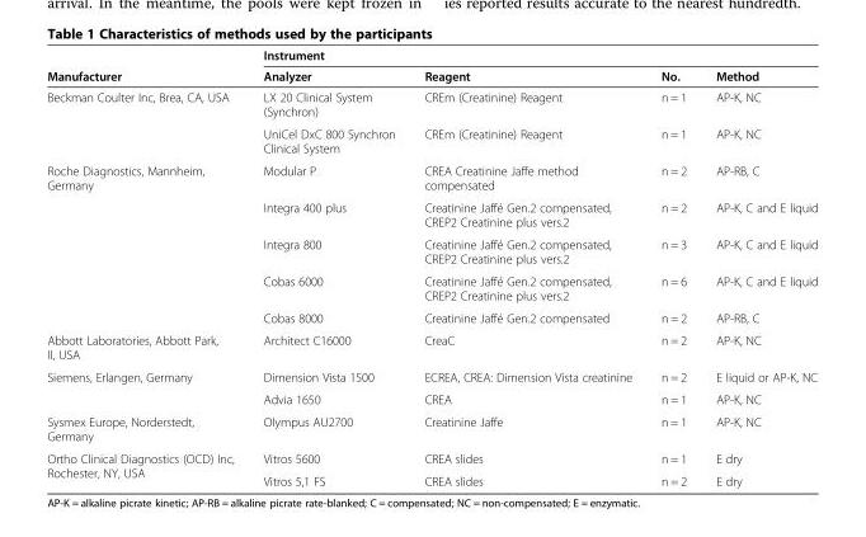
<table><thead><tr><td rowspan="2">Manufacturer</td><td colspan="4">Instrument</td></tr><tr><td>Analyzer</td><td>Reagent</td><td>No.</td><td>Method</td></tr></thead><tbody><tr><td rowspan="2">Beckman Coulter Inc, Brea, CA, USA</td><td>LX 20 Clinical System (Synchron)</td><td>CREm (Creatinine) Reagent</td><td>n = 1</td><td>AP-K, NC</td></tr><tr><td>UniCel DxC 800 Synchron Clinical System</td><td>CREm (Creatinine) Reagent</td><td>n = 1</td><td>AP-K, NC</td></tr><tr><td rowspan="5">Roche Diagnostics, Mannheim, Germany</td><td>Modular P</td><td>CREA Creatinine Jaffe method compensated</td><td>n = 2</td><td>AP-RB, C</td></tr><tr><td>Integra 400 plus</td><td>Creatinine Jaffé Gen.2 compensated, CREP2 Creatinine plus vers.2</td><td>n = 2</td><td>AP-K, C and E liquid</td></tr><tr><td>Integra 800</td><td>Creatinine Jaffé Gen.2 compensated, CREP2 Creatinine plus vers.2</td><td>n = 3</td><td>AP-K, C and E liquid</td></tr><tr><td>Cobas 6000</td><td>Creatinine Jaffé Gen.2 compensated, CREP2 Creatinine plus vers.2</td><td>n = 6</td><td>AP-K, C and E liquid</td></tr><tr><td>Cobas 8000</td><td>Creatinine Jaffé Gen.2 compensated</td><td>n = 2</td><td>AP-RB, C</td></tr><tr><td>Abbott Laboratories, Abbott Park, Il, USA</td><td>Architect C16000</td><td>CreaC</td><td>n = 2</td><td>AP-K, NC</td></tr><tr><td rowspan="2">Siemens, Erlangen, Germany</td><td>Dimension Vista 1500</td><td>ECREA, CREA: Dimension Vista creatinine</td><td>n = 2</td><td>E liquid or AP-K, NC</td></tr><tr><td>Advia 1650</td><td>CREA</td><td>n = 1</td><td>AP-K, NC</td></tr><tr><td>Sysmex Europe, Norderstedt, Germany</td><td>Olympus AU2700</td><td>Creatinine Jaffe</td><td>n = 1</td><td>AP-K, NC</td></tr><tr><td rowspan="2">Ortho Clinical Diagnostics (OCD) Inc, Rochester, NY, USA</td><td>Vitros 5600</td><td>CREA slides</td><td>n = 1</td><td>E dry</td></tr><tr><td>Vitros 5,1 FS</td><td>CREA slides</td><td>n = 2</td><td>E dry</td></tr></tbody></table>